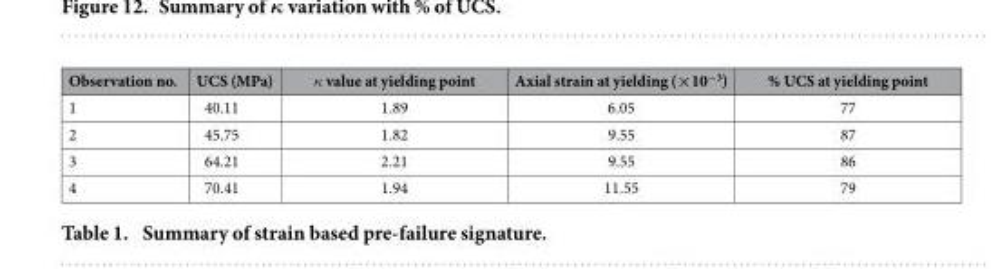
<table><thead><tr><td>Observation no.</td><td>UCS (MPa)</td><td>κ value at yielding point</td><td>Axial strain at yielding (×10<sup>−3</sup>)</td><td>% UCS at yielding point</td></tr></thead><tbody><tr><td>1</td><td>40.11</td><td>1.89</td><td>6.05</td><td>77</td></tr><tr><td>2</td><td>45.75</td><td>1.82</td><td>9.55</td><td>87</td></tr><tr><td>3</td><td>64.21</td><td>2.21</td><td>9.55</td><td>86</td></tr><tr><td>4</td><td>70.41</td><td>1.94</td><td>11.55</td><td>79</td></tr></tbody></table>